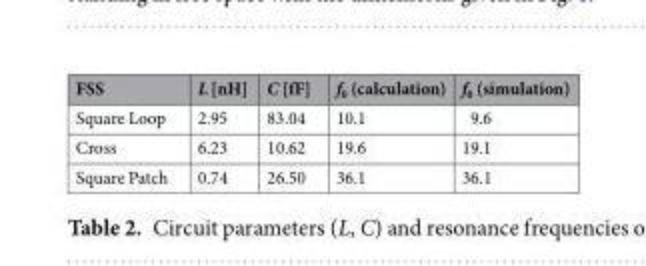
<table><thead><tr><td>FSS</td><td>L [nH]</td><td>C [fF]</td><td>f<sub>0</sub> (calculation)</td><td>f<sub>0</sub> (simulation)</td></tr></thead><tbody><tr><td>Square Loop</td><td>2.95</td><td>83.04</td><td>10.1</td><td>9.6</td></tr><tr><td>Cross</td><td>6.23</td><td>10.62</td><td>19.6</td><td>19.1</td></tr><tr><td>Square Patch</td><td>0.74</td><td>26.50</td><td>36.1</td><td>36.1</td></tr></tbody></table>